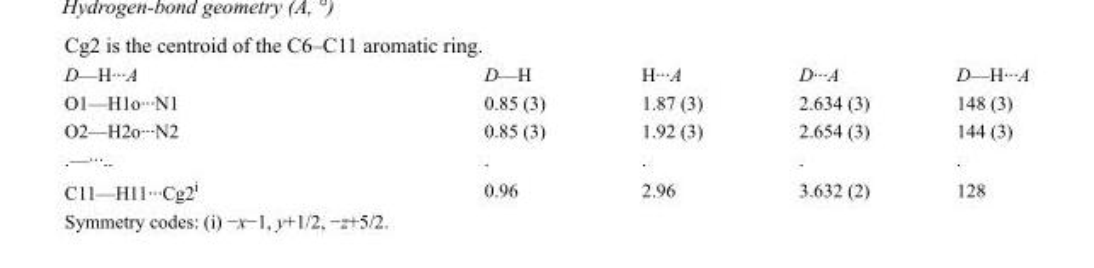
<table><tbody><tr><td>D—H···A</td><td>D—H</td><td>H···A</td><td>D···A</td><td>D—H···A</td></tr><tr><td>O1—H1o···N1</td><td>0.85 (3)</td><td>1.87 (3)</td><td>2.634 (3)</td><td>148 (3)</td></tr><tr><td>O2—H2o···N2</td><td>0.85 (3)</td><td>1.92 (3)</td><td>2.654 (3)</td><td>144 (3)</td></tr><tr><td>.—···..</td><td>.</td><td>.</td><td>.</td><td>.</td></tr><tr><td>C11—H11···Cg2<sup>i</sup></td><td>0.96</td><td>2.96</td><td>3.632 (2)</td><td>128</td></tr></tbody></table>